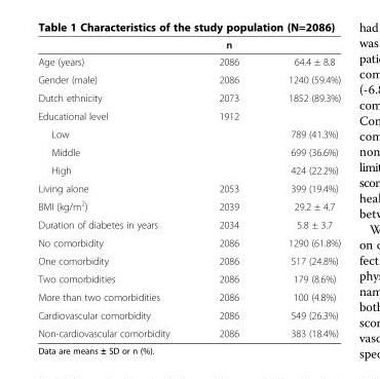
<table><thead><tr><td></td><td>n</td><td></td></tr></thead><tbody><tr><td>Age (years)</td><td>2086</td><td>64.4 ± 8.8</td></tr><tr><td>Gender (male)</td><td>2086</td><td>1240 (59.4%)</td></tr><tr><td>Dutch ethnicity</td><td>2073</td><td>1852 (89.3%)</td></tr><tr><td>Educational level</td><td>1912</td><td></td></tr><tr><td>Low</td><td></td><td>789 (41.3%)</td></tr><tr><td>Middle</td><td></td><td>699 (36.6%)</td></tr><tr><td>High</td><td></td><td>424 (22.2%)</td></tr><tr><td>Living alone</td><td>2053</td><td>399 (19.4%)</td></tr><tr><td>BMI (kg/m<sup>2</sup>)</td><td>2039</td><td>29.2 ± 4.7</td></tr><tr><td>Duration of diabetes in years</td><td>2034</td><td>5.8 ± 3.7</td></tr><tr><td>No comorbidity</td><td>2086</td><td>1290 (61.8%)</td></tr><tr><td>One comorbidity</td><td>2086</td><td>517 (24.8%)</td></tr><tr><td>Two comorbidities</td><td>2086</td><td>179 (8.6%)</td></tr><tr><td>More than two comorbidities</td><td>2086</td><td>100 (4.8%)</td></tr><tr><td>Cardiovascular comorbidity</td><td>2086</td><td>549 (26.3%)</td></tr><tr><td>Non-cardiovascular comorbidity</td><td>2086</td><td>383 (18.4%)</td></tr></tbody></table>